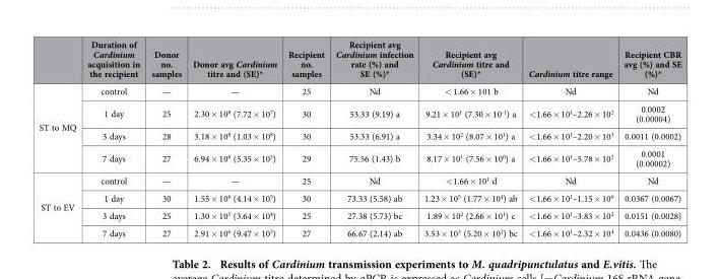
<table><thead><tr><td></td><td>Duration of Cardinium acquisition in the recipient</td><td>Donor no. samples</td><td>Donor avg Cardinium titre and (SE)*</td><td>Recipient no. samples</td><td>Recipient avg Cardinium infection rate (%) and SE (%)*</td><td>Recipient avg Cardinium titre and (SE)*</td><td>Cardinium titre range</td><td>Recipient CBR avg (%) and SE (%)*</td></tr></thead><tbody><tr><td rowspan="4">ST to MQ</td><td>control</td><td>—</td><td>—</td><td>25</td><td>Nd</td><td>&lt; 1.66 × 101 b</td><td>Nd</td><td>Nd</td></tr><tr><td>1 day</td><td>25</td><td>2.30 × 10<sup>8</sup> (7.72 × 10<sup>7</sup>)</td><td>30</td><td>53.33 (9.19) a</td><td>9.21 × 10<sup>1</sup> (7.30 × 10<sup>-1</sup>) a</td><td>&lt;1.66 × 10<sup>1</sup>–2.26 × 10<sup>2</sup></td><td>0.0002 (0.00004)</td></tr><tr><td>3 days</td><td>28</td><td>3.18 × 10<sup>8</sup> (1.03 × 10<sup>8</sup>)</td><td>30</td><td>53.33 (6.91) a</td><td>3.34 × 10<sup>2</sup> (8.07 × 10<sup>1</sup>) a</td><td>&lt;1.66 × 10<sup>1</sup>–2.20 × 10<sup>3</sup></td><td>0.0011 (0.0002)</td></tr><tr><td>7 days</td><td>27</td><td>6.94 × 10<sup>6</sup> (5.35 × 10<sup>5</sup>)</td><td>29</td><td>75.56 (1.43) b</td><td>8.17 × 10<sup>1</sup> (7.56 × 10<sup>0</sup>) a</td><td>&lt;1.66 × 10<sup>1</sup>–5.78 × 10<sup>2</sup></td><td>0.0001 (0.00002)</td></tr><tr><td rowspan="4">ST to EV</td><td>control</td><td>—</td><td>—</td><td>25</td><td>Nd</td><td>&lt;1.66 × 10<sup>1</sup> d</td><td>Nd</td><td>Nd</td></tr><tr><td>1 day</td><td>30</td><td>1.55 × 10<sup>6</sup> (4.14 × 10<sup>5</sup>)</td><td>30</td><td>73.33 (5.58) ab</td><td>1.23 × 10<sup>5</sup> (1.77 × 10<sup>4</sup>) ab</td><td>&lt;1.66 × 10<sup>1</sup>–1.15 × 10<sup>6</sup></td><td>0.0367 (0.0067)</td></tr><tr><td>3 days</td><td>25</td><td>1.30 × 10<sup>5</sup> (3.64 × 10<sup>4</sup>)</td><td>25</td><td>27.38 (5.73) bc</td><td>1.89 × 10<sup>2</sup> (2.66 × 10<sup>1</sup>) c</td><td>&lt;1.66 × 10<sup>1</sup>–3.83 × 10<sup>2</sup></td><td>0.0151 (0.0028)</td></tr><tr><td>7 days</td><td>27</td><td>2.91 × 10<sup>6</sup> (9.47 × 10<sup>5</sup>)</td><td>27</td><td>66.67 (2.14) ab</td><td>3.53 × 10<sup>3</sup> (5.20 × 10<sup>2</sup>) bc</td><td>&lt;1.66 × 10<sup>1</sup>–2.32 × 10<sup>4</sup></td><td>0.0436 (0.0080)</td></tr></tbody></table>